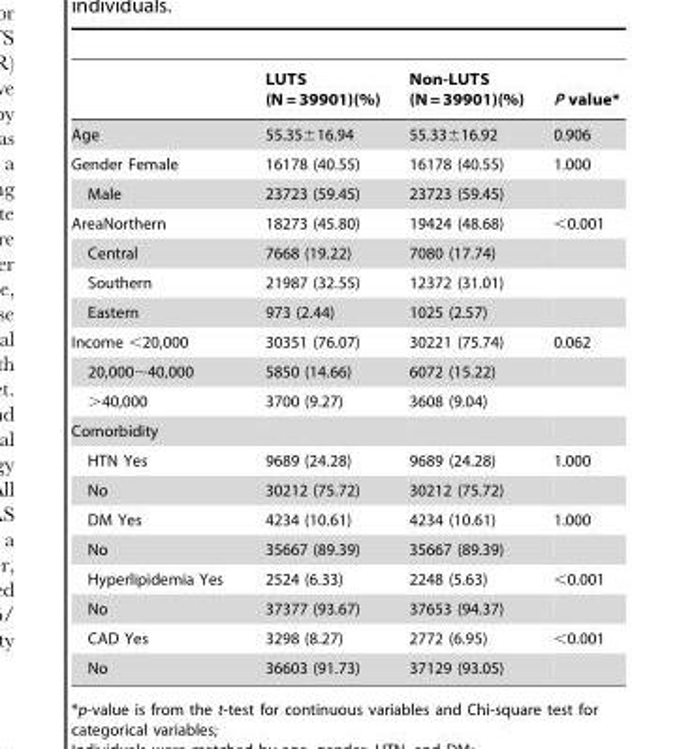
<table><thead><tr><td></td><td>LUTS (N = 39901)(%)</td><td>Non-LUTS (N = 39901)(%)</td><td>P value*</td></tr></thead><tbody><tr><td>Age</td><td>55.35±16.94</td><td>55.33±16.92</td><td>0.906</td></tr><tr><td>Gender Female</td><td>16178 (40.55)</td><td>16178 (40.55)</td><td>1.000</td></tr><tr><td>Male</td><td>23723 (59.45)</td><td>23723 (59.45)</td><td></td></tr><tr><td>AreaNorthern</td><td>18273 (45.80)</td><td>19424 (48.68)</td><td>&lt;0.001</td></tr><tr><td>Central</td><td>7668 (19.22)</td><td>7080 (17.74)</td><td></td></tr><tr><td>Southern</td><td>21987 (32.55)</td><td>12372 (31.01)</td><td></td></tr><tr><td>Eastern</td><td>973 (2.44)</td><td>1025 (2.57)</td><td></td></tr><tr><td>Income &lt;20,000</td><td>30351 (76.07)</td><td>30221 (75.74)</td><td>0.062</td></tr><tr><td>20,000∼40,000</td><td>5850 (14.66)</td><td>6072 (15.22)</td><td></td></tr><tr><td>&gt;40,000</td><td>3700 (9.27)</td><td>3608 (9.04)</td><td></td></tr><tr><td colspan="4">Comorbidity</td></tr><tr><td>HTN Yes</td><td>9689 (24.28)</td><td>9689 (24.28)</td><td>1.000</td></tr><tr><td>No</td><td>30212 (75.72)</td><td>30212 (75.72)</td><td></td></tr><tr><td>DM Yes</td><td>4234 (10.61)</td><td>4234 (10.61)</td><td>1.000</td></tr><tr><td>No</td><td>35667 (89.39)</td><td>35667 (89.39)</td><td></td></tr><tr><td>Hyperlipidemia Yes</td><td>2524 (6.33)</td><td>2248 (5.63)</td><td>&lt;0.001</td></tr><tr><td>No</td><td>37377 (93.67)</td><td>37653 (94.37)</td><td></td></tr><tr><td>CAD Yes</td><td>3298 (8.27)</td><td>2772 (6.95)</td><td>&lt;0.001</td></tr><tr><td>No</td><td>36603 (91.73)</td><td>37129 (93.05)</td><td></td></tr></tbody></table>